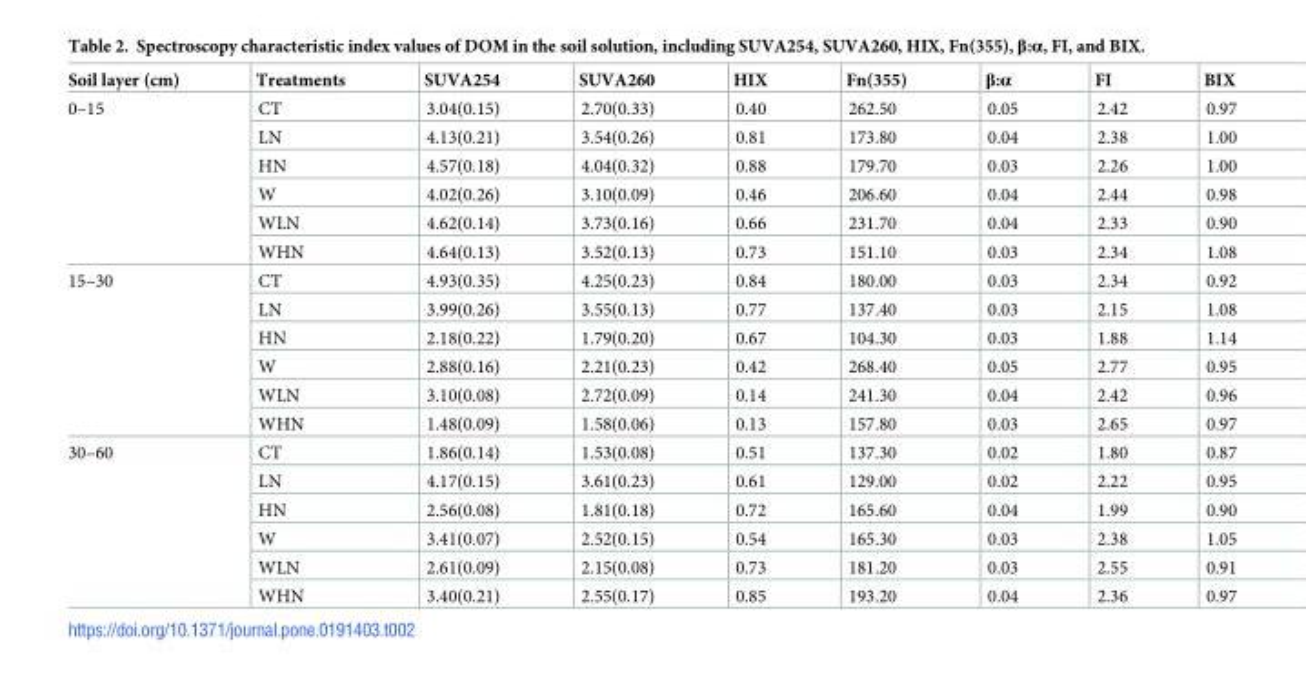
<table><thead><tr><td>Soil layer (cm)</td><td>Treatments</td><td>SUVA254</td><td>SUVA260</td><td>HIX</td><td>Fn(355)</td><td>β:α</td><td>FI</td><td>BIX</td></tr></thead><tbody><tr><td rowspan="6">0–15</td><td>CT</td><td>3.04(0.15)</td><td>2.70(0.33)</td><td>0.40</td><td>262.50</td><td>0.05</td><td>2.42</td><td>0.97</td></tr><tr><td>LN</td><td>4.13(0.21)</td><td>3.54(0.26)</td><td>0.81</td><td>173.80</td><td>0.04</td><td>2.38</td><td>1.00</td></tr><tr><td>HN</td><td>4.57(0.18)</td><td>4.04(0.32)</td><td>0.88</td><td>179.70</td><td>0.03</td><td>2.26</td><td>1.00</td></tr><tr><td>W</td><td>4.02(0.26)</td><td>3.10(0.09)</td><td>0.46</td><td>206.60</td><td>0.04</td><td>2.44</td><td>0.98</td></tr><tr><td>WLN</td><td>4.62(0.14)</td><td>3.73(0.16)</td><td>0.66</td><td>231.70</td><td>0.04</td><td>2.33</td><td>0.90</td></tr><tr><td>WHN</td><td>4.64(0.13)</td><td>3.52(0.13)</td><td>0.73</td><td>151.10</td><td>0.03</td><td>2.34</td><td>1.08</td></tr><tr><td rowspan="6">15–30</td><td>CT</td><td>4.93(0.35)</td><td>4.25(0.23)</td><td>0.84</td><td>180.00</td><td>0.03</td><td>2.34</td><td>0.92</td></tr><tr><td>LN</td><td>3.99(0.26)</td><td>3.55(0.13)</td><td>0.77</td><td>137.40</td><td>0.03</td><td>2.15</td><td>1.08</td></tr><tr><td>HN</td><td>2.18(0.22)</td><td>1.79(0.20)</td><td>0.67</td><td>104.30</td><td>0.03</td><td>1.88</td><td>1.14</td></tr><tr><td>W</td><td>2.88(0.16)</td><td>2.21(0.23)</td><td>0.42</td><td>268.40</td><td>0.05</td><td>2.77</td><td>0.95</td></tr><tr><td>WLN</td><td>3.10(0.08)</td><td>2.72(0.09)</td><td>0.14</td><td>241.30</td><td>0.04</td><td>2.42</td><td>0.96</td></tr><tr><td>WHN</td><td>1.48(0.09)</td><td>1.58(0.06)</td><td>0.13</td><td>157.80</td><td>0.03</td><td>2.65</td><td>0.97</td></tr><tr><td rowspan="6">30–60</td><td>CT</td><td>1.86(0.14)</td><td>1.53(0.08)</td><td>0.51</td><td>137.30</td><td>0.02</td><td>1.80</td><td>0.87</td></tr><tr><td>LN</td><td>4.17(0.15)</td><td>3.61(0.23)</td><td>0.61</td><td>129.00</td><td>0.02</td><td>2.22</td><td>0.95</td></tr><tr><td>HN</td><td>2.56(0.08)</td><td>1.81(0.18)</td><td>0.72</td><td>165.60</td><td>0.04</td><td>1.99</td><td>0.90</td></tr><tr><td>W</td><td>3.41(0.07)</td><td>2.52(0.15)</td><td>0.54</td><td>165.30</td><td>0.03</td><td>2.38</td><td>1.05</td></tr><tr><td>WLN</td><td>2.61(0.09)</td><td>2.15(0.08)</td><td>0.73</td><td>181.20</td><td>0.03</td><td>2.55</td><td>0.91</td></tr><tr><td>WHN</td><td>3.40(0.21)</td><td>2.55(0.17)</td><td>0.85</td><td>193.20</td><td>0.04</td><td>2.36</td><td>0.97</td></tr></tbody></table>